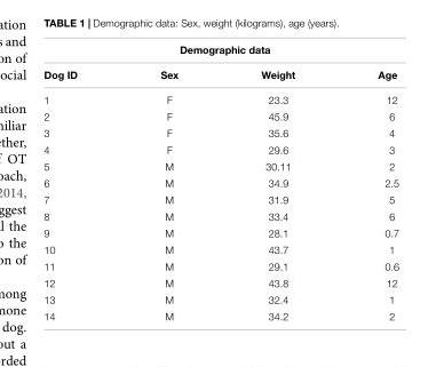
<table><thead><tr><td colspan="4">Demographic data</td></tr><tr><td>Dog ID</td><td>Sex</td><td>Weight</td><td>Age</td></tr></thead><tbody><tr><td>1</td><td>F</td><td>23.3</td><td>12</td></tr><tr><td>2</td><td>F</td><td>45.9</td><td>6</td></tr><tr><td>3</td><td>F</td><td>35.6</td><td>4</td></tr><tr><td>4</td><td>F</td><td>29.6</td><td>3</td></tr><tr><td>5</td><td>M</td><td>30.11</td><td>2</td></tr><tr><td>6</td><td>M</td><td>34.9</td><td>2.5</td></tr><tr><td>7</td><td>M</td><td>31.9</td><td>5</td></tr><tr><td>8</td><td>M</td><td>33.4</td><td>6</td></tr><tr><td>9</td><td>M</td><td>28.1</td><td>0.7</td></tr><tr><td>10</td><td>M</td><td>43.7</td><td>1</td></tr><tr><td>11</td><td>M</td><td>29.1</td><td>0.6</td></tr><tr><td>12</td><td>M</td><td>43.8</td><td>12</td></tr><tr><td>13</td><td>M</td><td>32.4</td><td>1</td></tr><tr><td>14</td><td>M</td><td>34.2</td><td>2</td></tr></tbody></table>